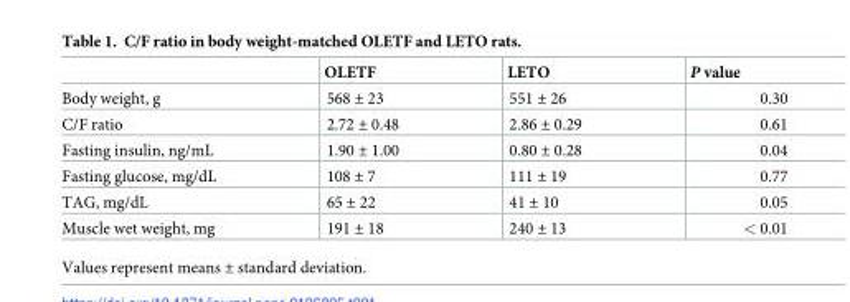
<table><thead><tr><td></td><td>OLETF</td><td>LETO</td><td>P value</td></tr></thead><tbody><tr><td>Body weight, g</td><td>568 ± 23</td><td>551 ± 26</td><td>0.30</td></tr><tr><td>C/F ratio</td><td>2.72 ± 0.48</td><td>2.86 ± 0.29</td><td>0.61</td></tr><tr><td>Fasting insulin, ng/mL</td><td>1.90 ± 1.00</td><td>0.80 ± 0.28</td><td>0.04</td></tr><tr><td>Fasting glucose, mg/dL</td><td>108 ± 7</td><td>111 ± 19</td><td>0.77</td></tr><tr><td>TAG, mg/dL</td><td>65 ± 22</td><td>41 ± 10</td><td>0.05</td></tr><tr><td>Muscle wet weight, mg</td><td>191 ± 18</td><td>240 ± 13</td><td>&lt; 0.01</td></tr></tbody></table>